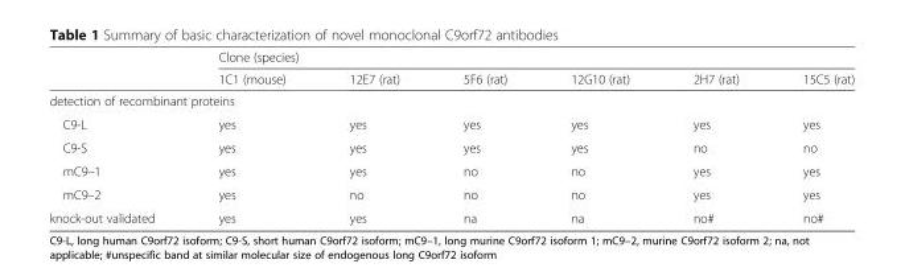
<table><thead><tr><td rowspan="2"></td><td colspan="6">Clone (species)</td></tr><tr><td>1C1 (mouse)</td><td>12E7 (rat)</td><td>5F6 (rat)</td><td>12G10 (rat)</td><td>2H7 (rat)</td><td>15C5 (rat)</td></tr></thead><tbody><tr><td colspan="7">detection of recombinant proteins</td></tr><tr><td>C9-L</td><td>yes</td><td>yes</td><td>yes</td><td>yes</td><td>yes</td><td>yes</td></tr><tr><td>C9-S</td><td>yes</td><td>yes</td><td>yes</td><td>yes</td><td>no</td><td>no</td></tr><tr><td>mC9–1</td><td>yes</td><td>yes</td><td>no</td><td>no</td><td>yes</td><td>yes</td></tr><tr><td>mC9–2</td><td>yes</td><td>no</td><td>no</td><td>no</td><td>yes</td><td>yes</td></tr><tr><td>knock-out validated</td><td>yes</td><td>yes</td><td>na</td><td>na</td><td>no#</td><td>no#</td></tr></tbody></table>